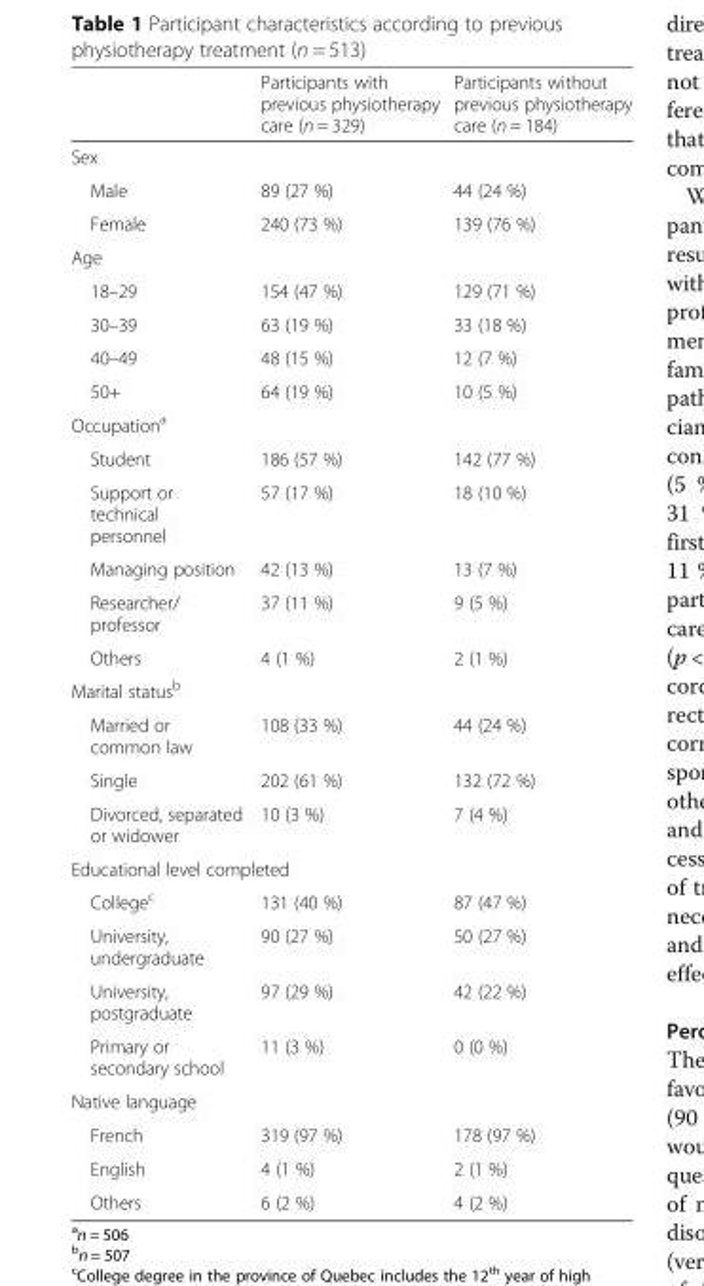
<table><thead><tr><td></td><td>Participants with previous physiotherapy care (n = 329)</td><td>Participants without previous physiotherapy care (n = 184)</td></tr></thead><tbody><tr><td colspan="3">Sex</td></tr><tr><td>Male</td><td>89 (27 %)</td><td>44 (24 %)</td></tr><tr><td>Female</td><td>240 (73 %)</td><td>139 (76 %)</td></tr><tr><td colspan="3">Age</td></tr><tr><td>18–29</td><td>154 (47 %)</td><td>129 (71 %)</td></tr><tr><td>30–39</td><td>63 (19 %)</td><td>33 (18 %)</td></tr><tr><td>40–49</td><td>48 (15 %)</td><td>12 (7 %)</td></tr><tr><td>50+</td><td>64 (19 %)</td><td>10 (5 %)</td></tr><tr><td colspan="3">Occupation<sup>a</sup></td></tr><tr><td>Student</td><td>186 (57 %)</td><td>142 (77 %)</td></tr><tr><td>Support or technical personnel</td><td>57 (17 %)</td><td>18 (10 %)</td></tr><tr><td>Managing position</td><td>42 (13 %)</td><td>13 (7 %)</td></tr><tr><td>Researcher/ professor</td><td>37 (11 %)</td><td>9 (5 %)</td></tr><tr><td>Others</td><td>4 (1 %)</td><td>2 (1 %)</td></tr><tr><td colspan="3">Marital status<sup>b</sup></td></tr><tr><td>Married or common law</td><td>108 (33 %)</td><td>44 (24 %)</td></tr><tr><td>Single</td><td>202 (61 %)</td><td>132 (72 %)</td></tr><tr><td>Divorced, separated or widower</td><td>10 (3 %)</td><td>7 (4 %)</td></tr><tr><td colspan="3">Educational level completed</td></tr><tr><td>College<sup>c</sup></td><td>131 (40 %)</td><td>87 (47 %)</td></tr><tr><td>University, undergraduate</td><td>90 (27 %)</td><td>50 (27 %)</td></tr><tr><td>University, postgraduate</td><td>97 (29 %)</td><td>42 (22 %)</td></tr><tr><td>Primary or secondary school</td><td>11 (3 %)</td><td>0 (0 %)</td></tr><tr><td colspan="3">Native language</td></tr><tr><td>French</td><td>319 (97 %)</td><td>178 (97 %)</td></tr><tr><td>English</td><td>4 (1 %)</td><td>2 (1 %)</td></tr><tr><td>Others</td><td>6 (2 %)</td><td>4 (2 %)</td></tr></tbody></table>